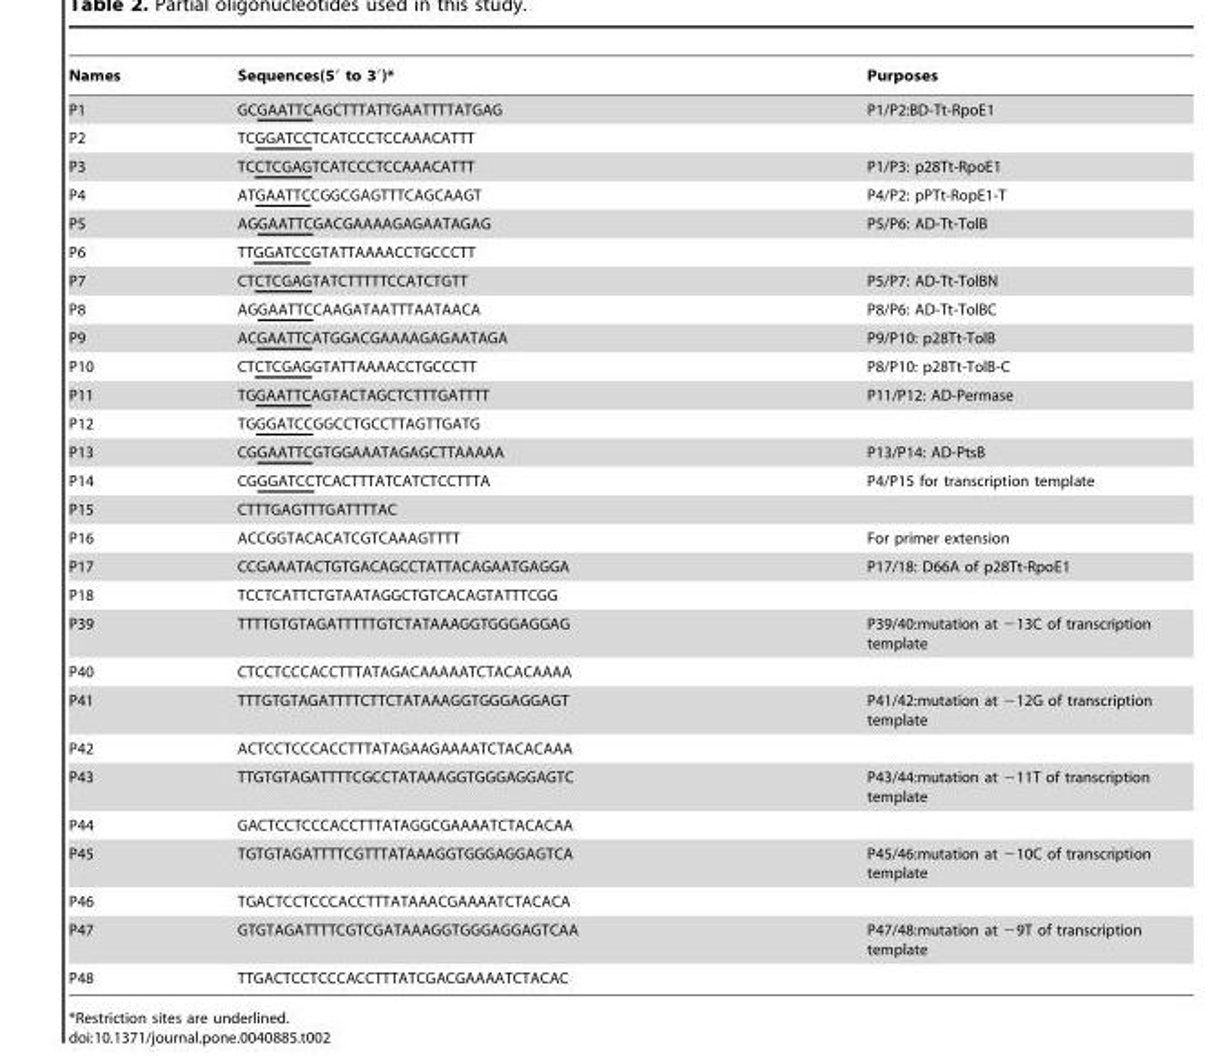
<table><thead><tr><td>Names</td><td>Sequences(5′ to 3′)*</td><td>Purposes</td></tr></thead><tbody><tr><td>P1</td><td>GCGAATTCAGCTTTATTGAATTTTATGAG</td><td>P1/P2:BD-Tt-RpoE1</td></tr><tr><td>P2</td><td>TCGGATCCTCATCCCTCCAAACATTT</td><td></td></tr><tr><td>P3</td><td>TCCTCGAGTCATCCCTCCAAACATTT</td><td>P1/P3: p28Tt-RpoE1</td></tr><tr><td>P4</td><td>ATGAATTCCGGCGAGTTTCAGCAAGT</td><td>P4/P2: pPTt-RopE1-T</td></tr><tr><td>P5</td><td>AGGAATTCGACGAAAAGAGAATAGAG</td><td>P5/P6: AD-Tt-TolB</td></tr><tr><td>P6</td><td>TTGGATCCGTATTAAAACCTGCCCTT</td><td></td></tr><tr><td>P7</td><td>CTCTCGAGTATCTTTTTCCATCTGTT</td><td>P5/P7: AD-Tt-TolBN</td></tr><tr><td>P8</td><td>AGGAATTCCAAGATAATTTAATAACA</td><td>P8/P6: AD-Tt-TolBC</td></tr><tr><td>P9</td><td>ACGAATTCATGGACGAAAAGAGAATAGA</td><td>P9/P10: p28Tt-TolB</td></tr><tr><td>P10</td><td>CTCTCGAGGTATTAAAACCTGCCCTT</td><td>P8/P10: p28Tt-TolB-C</td></tr><tr><td>P11</td><td>TGGAATTCAGTACTAGCTCTTTGATTTT</td><td>P11/P12: AD-Permase</td></tr><tr><td>P12</td><td>TGGGATCCGGCCTGCCTTAGTTGATG</td><td></td></tr><tr><td>P13</td><td>CGGAATTCGTGGAAATAGAGCTTAAAAA</td><td>P13/P14: AD-PtsB</td></tr><tr><td>P14</td><td>CGGGATCCTCACTTTATCATCTCCTTTA</td><td>P4/P15 for transcription template</td></tr><tr><td>P15</td><td>CTTTGAGTTTGATTTTAC</td><td></td></tr><tr><td>P16</td><td>ACCGGTACACATCGTCAAAGTTTT</td><td>For primer extension</td></tr><tr><td>P17</td><td>CCGAAATACTGTGACAGCCTATTACAGAATGAGGA</td><td>P17/18: D66A of p28Tt-RpoE1</td></tr><tr><td>P18</td><td>TCCTCATTCTGTAATAGGCTGTCACAGTATTTCGG</td><td></td></tr><tr><td>P39</td><td>TTTTGTGTAGATTTTTGTCTATAAAGGTGGGAGGAG</td><td>P39/40:mutation at −13C of transcription template</td></tr><tr><td>P40</td><td>CTCCTCCCACCTTTATAGACAAAAATCTACACAAAA</td><td></td></tr><tr><td>P41</td><td>TTTGTGTAGATTTTCTTCTATAAAGGTGGGAGGAGT</td><td>P41/42:mutation at −12G of transcription template</td></tr><tr><td>P42</td><td>ACTCCTCCCACCTTTATAGAAGAAAATCTACACAAA</td><td></td></tr><tr><td>P43</td><td>TTGTGTAGATTTTCGCCTATAAAGGTGGGAGGAGTC</td><td>P43/44:mutation at −11T of transcription template</td></tr><tr><td>P44</td><td>GACTCCTCCCACCTTTATAGGCGAAAATCTACACAA</td><td></td></tr><tr><td>P45</td><td>TGTGTAGATTTTCGTTTATAAAGGTGGGAGGAGTCA</td><td>P45/46:mutation at −10C of transcription template</td></tr><tr><td>P46</td><td>TGACTCCTCCCACCTTTATAAACGAAAATCTACACA</td><td></td></tr><tr><td>P47</td><td>GTGTAGATTTTCGTCGATAAAGGTGGGAGGAGTCAA</td><td>P47/48:mutation at −9T of transcription template</td></tr><tr><td>P48</td><td>TTGACTCCTCCCACCTTTATCGACGAAAATCTACAC</td><td></td></tr></tbody></table>